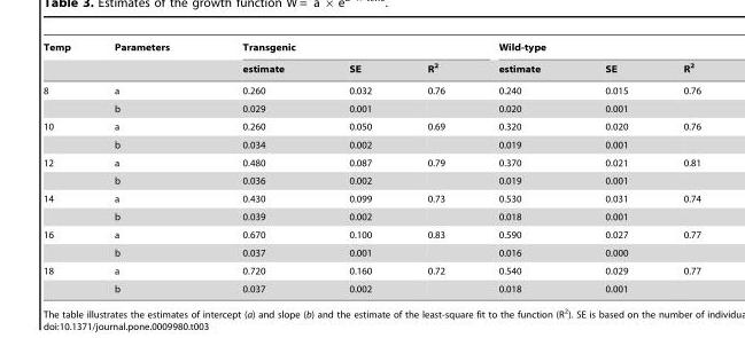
<table><thead><tr><td rowspan="2">Temp</td><td rowspan="2">Parameters</td><td colspan="3">Transgenic</td><td colspan="3">Wild-type</td></tr><tr><td>estimate</td><td>SE</td><td>R<sup>2</sup></td><td>estimate</td><td>SE</td><td>R<sup>2</sup></td></tr></thead><tbody><tr><td rowspan="2">8</td><td>a</td><td>0.260</td><td>0.032</td><td>0.76</td><td>0.240</td><td>0.015</td><td>0.76</td></tr><tr><td>b</td><td>0.029</td><td>0.001</td><td></td><td>0.020</td><td>0.001</td><td></td></tr><tr><td rowspan="2">10</td><td>a</td><td>0.260</td><td>0.050</td><td>0.69</td><td>0.320</td><td>0.020</td><td>0.76</td></tr><tr><td>b</td><td>0.034</td><td>0.002</td><td></td><td>0.019</td><td>0.001</td><td></td></tr><tr><td rowspan="2">12</td><td>a</td><td>0.480</td><td>0.087</td><td>0.79</td><td>0.370</td><td>0.021</td><td>0.81</td></tr><tr><td>b</td><td>0.036</td><td>0.002</td><td></td><td>0.019</td><td>0.001</td><td></td></tr><tr><td rowspan="2">14</td><td>a</td><td>0.430</td><td>0.099</td><td>0.73</td><td>0.530</td><td>0.031</td><td>0.74</td></tr><tr><td>b</td><td>0.039</td><td>0.002</td><td></td><td>0.018</td><td>0.001</td><td></td></tr><tr><td rowspan="2">16</td><td>a</td><td>0.670</td><td>0.100</td><td>0.83</td><td>0.590</td><td>0.027</td><td>0.77</td></tr><tr><td>b</td><td>0.037</td><td>0.001</td><td></td><td>0.016</td><td>0.000</td><td></td></tr><tr><td rowspan="2">18</td><td>a</td><td>0.720</td><td>0.160</td><td>0.72</td><td>0.540</td><td>0.029</td><td>0.77</td></tr><tr><td>b</td><td>0.037</td><td>0.002</td><td></td><td>0.018</td><td>0.001</td><td></td></tr></tbody></table>